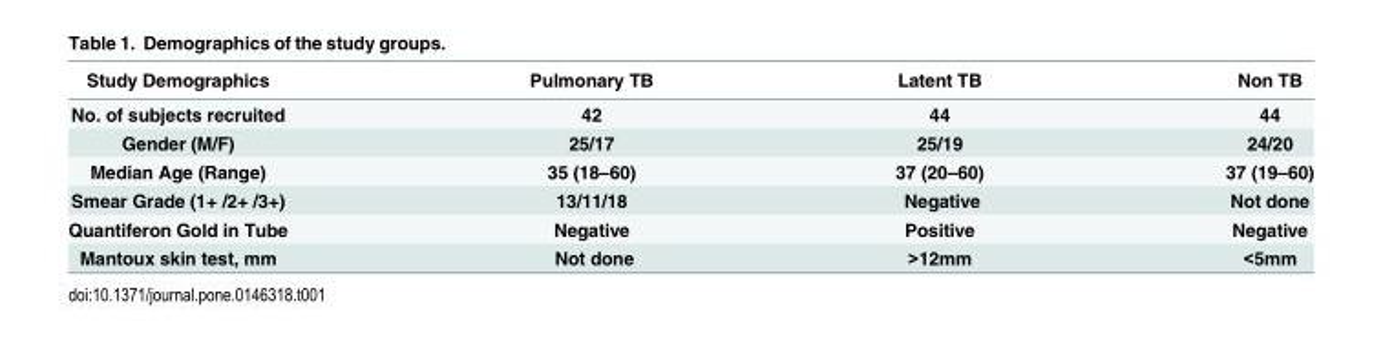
<table><thead><tr><td>Study Demographics</td><td>Pulmonary TB</td><td>Latent TB</td><td>Non TB</td></tr></thead><tbody><tr><td>No. of subjects recruited</td><td>42</td><td>44</td><td>44</td></tr><tr><td>Gender (M/F)</td><td>25/17</td><td>25/19</td><td>24/20</td></tr><tr><td>Median Age (Range)</td><td>35 (18–60)</td><td>37 (20–60)</td><td>37 (19–60)</td></tr><tr><td>Smear Grade (1+ /2+ /3+)</td><td>13/11/18</td><td>Negative</td><td>Not done</td></tr><tr><td>Quantiferon Gold in Tube</td><td>Negative</td><td>Positive</td><td>Negative</td></tr><tr><td>Mantoux skin test, mm</td><td>Not done</td><td>&gt;12mm</td><td>&lt;5mm</td></tr></tbody></table>